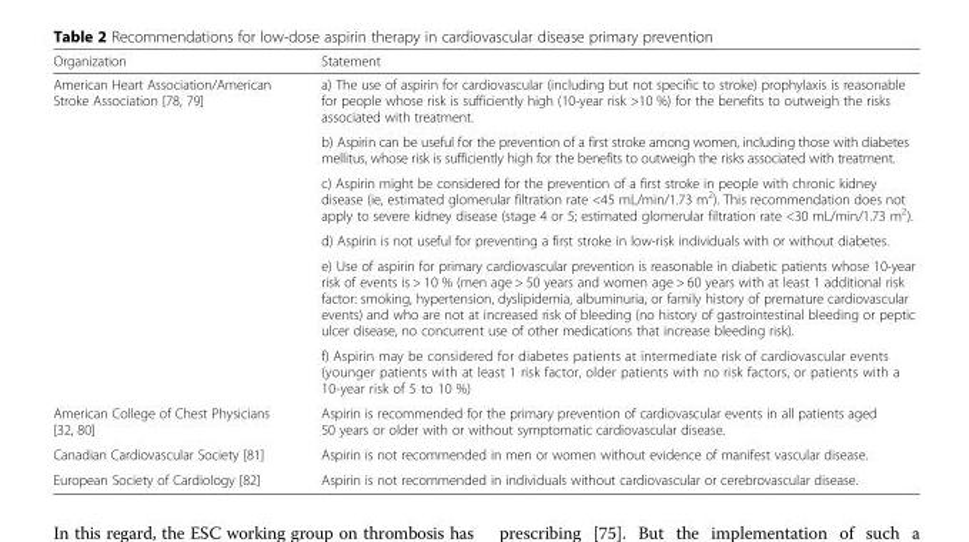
<table><thead><tr><td>Organization</td><td>Statement</td></tr></thead><tbody><tr><td rowspan="6">American Heart Association/American Stroke Association [78, 79]</td><td>a) The use of aspirin for cardiovascular (including but not specific to stroke) prophylaxis is reasonable for people whose risk is sufficiently high (10-year risk &gt;10 %) for the benefits to outweigh the risks associated with treatment.</td></tr><tr><td>b) Aspirin can be useful for the prevention of a first stroke among women, including those with diabetes mellitus, whose risk is sufficiently high for the benefits to outweigh the risks associated with treatment.</td></tr><tr><td>c) Aspirin might be considered for the prevention of a first stroke in people with chronic kidney disease (ie, estimated glomerular filtration rate &lt;45 mL/min/1.73 m<sup>2</sup>). This recommendation does not apply to severe kidney disease (stage 4 or 5; estimated glomerular filtration rate &lt;30 mL/min/1.73 m<sup>2</sup>).</td></tr><tr><td>d) Aspirin is not useful for preventing a first stroke in low-risk individuals with or without diabetes.</td></tr><tr><td>e) Use of aspirin for primary cardiovascular prevention is reasonable in diabetic patients whose 10-year risk of events is &gt; 10 % (men age &gt; 50 years and women age &gt; 60 years with at least 1 additional risk factor: smoking, hypertension, dyslipidemia, albuminuria, or family history of premature cardiovascular events) and who are not at increased risk of bleeding (no history of gastrointestinal bleeding or peptic ulcer disease, no concurrent use of other medications that increase bleeding risk).</td></tr><tr><td>f) Aspirin may be considered for diabetes patients at intermediate risk of cardiovascular events (younger patients with at least 1 risk factor, older patients with no risk factors, or patients with a 10-year risk of 5 to 10 %)</td></tr><tr><td>American College of Chest Physicians [32, 80]</td><td>Aspirin is recommended for the primary prevention of cardiovascular events in all patients aged 50 years or older with or without symptomatic cardiovascular disease.</td></tr><tr><td>Canadian Cardiovascular Society [81]</td><td>Aspirin is not recommended in men or women without evidence of manifest vascular disease.</td></tr><tr><td>European Society of Cardiology [82]</td><td>Aspirin is not recommended in individuals without cardiovascular or cerebrovascular disease.</td></tr></tbody></table>